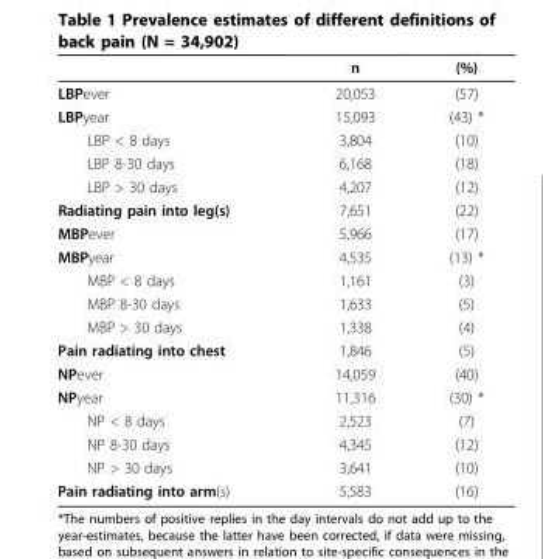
<table><thead><tr><td></td><td>n</td><td>(%)</td></tr></thead><tbody><tr><td>LBPever</td><td>20,053</td><td>(57)</td></tr><tr><td>LBPyear</td><td>15,093</td><td>(43) *</td></tr><tr><td>LBP &lt; 8 days</td><td>3,804</td><td>(10)</td></tr><tr><td>LBP 8-30 days</td><td>6,168</td><td>(18)</td></tr><tr><td>LBP &gt; 30 days</td><td>4,207</td><td>(12)</td></tr><tr><td>Radiating pain into leg(s)</td><td>7,651</td><td>(22)</td></tr><tr><td>MBPever</td><td>5,966</td><td>(17)</td></tr><tr><td>MBPyear</td><td>4,535</td><td>(13) *</td></tr><tr><td>MBP &lt; 8 days</td><td>1,161</td><td>(3)</td></tr><tr><td>MBP 8-30 days</td><td>1,633</td><td>(5)</td></tr><tr><td>MBP &gt; 30 days</td><td>1,338</td><td>(4)</td></tr><tr><td>Pain radiating into chest</td><td>1,846</td><td>(5)</td></tr><tr><td>NPever</td><td>14,059</td><td>(40)</td></tr><tr><td>NPyear</td><td>11,316</td><td>(30) *</td></tr><tr><td>NP &lt; 8 days</td><td>2,523</td><td>(7)</td></tr><tr><td>NP 8-30 days</td><td>4,345</td><td>(12)</td></tr><tr><td>NP &gt; 30 days</td><td>3,641</td><td>(10)</td></tr><tr><td>Pain radiating into arm(s)</td><td>5,583</td><td>(16)</td></tr></tbody></table>